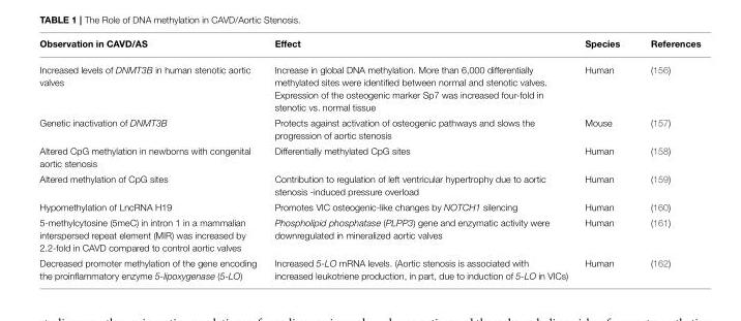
<table><thead><tr><td>Observation in CAVD/AS</td><td>Effect</td><td>Species</td><td>References</td></tr></thead><tbody><tr><td>Increased levels of DNMT3B in human stenotic aortic valves</td><td>Increase in global DNA methylation. More than 6,000 differentially methylated sites were identified between normal and stenotic valves. Expression of the osteogenic marker Sp7 was increased four-fold in stenotic vs. normal tissue</td><td>Human</td><td>(156)</td></tr><tr><td>Genetic inactivation of DNMT3B</td><td>Protects against activation of osteogenic pathways and slows the progression of aortic stenosis</td><td>Mouse</td><td>(157)</td></tr><tr><td>Altered CpG methylation in newborns with congenital aortic stenosis</td><td>Differentially methylated CpG sites</td><td>Human</td><td>(158)</td></tr><tr><td>Altered methylation of CpG sites</td><td>Contribution to regulation of left ventricular hypertrophy due to aortic stenosis -induced pressure overload</td><td>Human</td><td>(159)</td></tr><tr><td>Hypomethylation of LncRNA H19</td><td>Promotes VIC osteogenic-like changes by NOTCH1 silencing</td><td>Human</td><td>(160)</td></tr><tr><td>5-methylcytosine (5meC) in intron 1 in a mammalian interspersed repeat element (MIR) was increased by 2.2-fold in CAVD compared to control aortic valves</td><td>Phospholipid phosphatase (PLPP3) gene and enzymatic activity were downregulated in mineralized aortic valves</td><td>Human</td><td>(161)</td></tr><tr><td>Decreased promoter methylation of the gene encoding the proinflammatory enzyme 5-lipoxygenase (5-LO)</td><td>Increased 5-LO mRNA levels. (Aortic stenosis is associated with increased leukotriene production, in part, due to induction of 5-LO in VICs)</td><td>Human</td><td>(162)</td></tr></tbody></table>